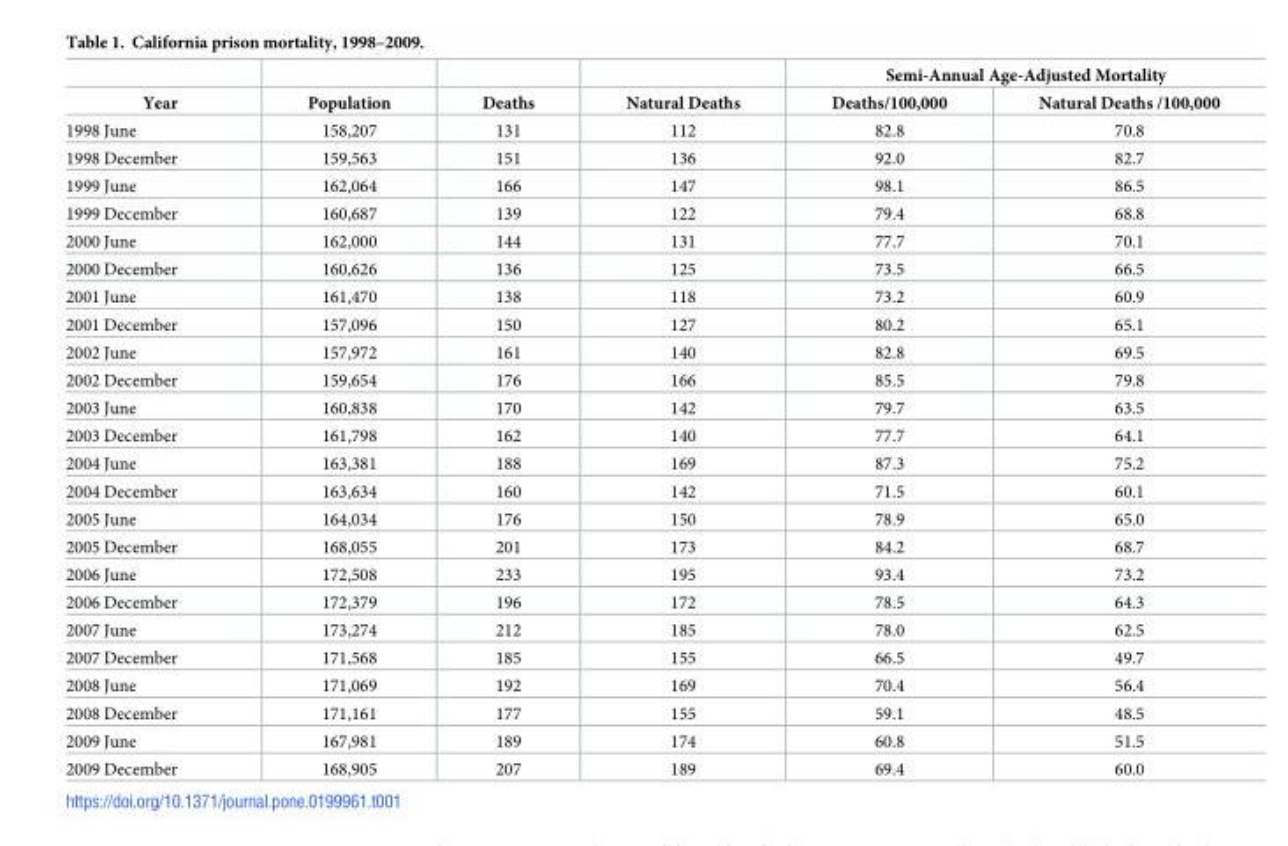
<table><thead><tr><td rowspan="2">Year</td><td rowspan="2">Population</td><td rowspan="2">Deaths</td><td rowspan="2">Natural Deaths</td><td colspan="2">Semi-Annual Age-Adjusted Mortality</td></tr><tr><td>Deaths/100,000</td><td>Natural Deaths /100,000</td></tr></thead><tbody><tr><td>1998 June</td><td>158,207</td><td>131</td><td>112</td><td>82.8</td><td>70.8</td></tr><tr><td>1998 December</td><td>159,563</td><td>151</td><td>136</td><td>92.0</td><td>82.7</td></tr><tr><td>1999 June</td><td>162,064</td><td>166</td><td>147</td><td>98.1</td><td>86.5</td></tr><tr><td>1999 December</td><td>160,687</td><td>139</td><td>122</td><td>79.4</td><td>68.8</td></tr><tr><td>2000 June</td><td>162,000</td><td>144</td><td>131</td><td>77.7</td><td>70.1</td></tr><tr><td>2000 December</td><td>160,626</td><td>136</td><td>125</td><td>73.5</td><td>66.5</td></tr><tr><td>2001 June</td><td>161,470</td><td>138</td><td>118</td><td>73.2</td><td>60.9</td></tr><tr><td>2001 December</td><td>157,096</td><td>150</td><td>127</td><td>80.2</td><td>65.1</td></tr><tr><td>2002 June</td><td>157,972</td><td>161</td><td>140</td><td>82.8</td><td>69.5</td></tr><tr><td>2002 December</td><td>159,654</td><td>176</td><td>166</td><td>85.5</td><td>79.8</td></tr><tr><td>2003 June</td><td>160,838</td><td>170</td><td>142</td><td>79.7</td><td>63.5</td></tr><tr><td>2003 December</td><td>161,798</td><td>162</td><td>140</td><td>77.7</td><td>64.1</td></tr><tr><td>2004 June</td><td>163,381</td><td>188</td><td>169</td><td>87.3</td><td>75.2</td></tr><tr><td>2004 December</td><td>163,634</td><td>160</td><td>142</td><td>71.5</td><td>60.1</td></tr><tr><td>2005 June</td><td>164,034</td><td>176</td><td>150</td><td>78.9</td><td>65.0</td></tr><tr><td>2005 December</td><td>168,055</td><td>201</td><td>173</td><td>84.2</td><td>68.7</td></tr><tr><td>2006 June</td><td>172,508</td><td>233</td><td>195</td><td>93.4</td><td>73.2</td></tr><tr><td>2006 December</td><td>172,379</td><td>196</td><td>172</td><td>78.5</td><td>64.3</td></tr><tr><td>2007 June</td><td>173,274</td><td>212</td><td>185</td><td>78.0</td><td>62.5</td></tr><tr><td>2007 December</td><td>171,568</td><td>185</td><td>155</td><td>66.5</td><td>49.7</td></tr><tr><td>2008 June</td><td>171,069</td><td>192</td><td>169</td><td>70.4</td><td>56.4</td></tr><tr><td>2008 December</td><td>171,161</td><td>177</td><td>155</td><td>59.1</td><td>48.5</td></tr><tr><td>2009 June</td><td>167,981</td><td>189</td><td>174</td><td>60.8</td><td>51.5</td></tr><tr><td>2009 December</td><td>168,905</td><td>207</td><td>189</td><td>69.4</td><td>60.0</td></tr></tbody></table>